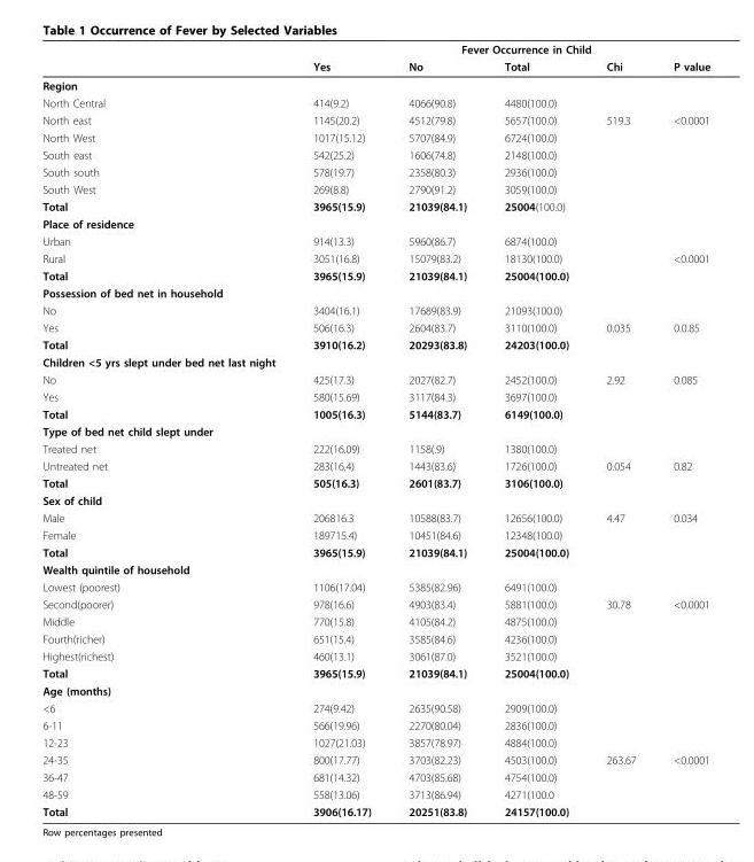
<table><thead><tr><td rowspan="2"></td><td colspan="5">Fever Occurrence in Child</td></tr><tr><td>Yes</td><td>No</td><td>Total</td><td>Chi</td><td>P value</td></tr></thead><tbody><tr><td colspan="6">Region</td></tr><tr><td>North Central</td><td>414(9.2)</td><td>4066(90.8)</td><td>4480(100.0)</td><td></td><td></td></tr><tr><td>North east</td><td>1145(20.2)</td><td>4512(79.8)</td><td>5657(100.0)</td><td>519.3</td><td>&lt;0.0001</td></tr><tr><td>North West</td><td>1017(15.12)</td><td>5707(84.9)</td><td>6724(100.0)</td><td></td><td></td></tr><tr><td>South east</td><td>542(25.2)</td><td>1606(74.8)</td><td>2148(100.0)</td><td></td><td></td></tr><tr><td>South south</td><td>578(19.7)</td><td>2358(80.3)</td><td>2936(100.0)</td><td></td><td></td></tr><tr><td>South West</td><td>269(8.8)</td><td>2790(91.2)</td><td>3059(100.0)</td><td></td><td></td></tr><tr><td>Total</td><td>3965(15.9)</td><td>21039(84.1)</td><td>25004(100.0)</td><td></td><td></td></tr><tr><td colspan="6">Place of residence</td></tr><tr><td>Urban</td><td>914(13.3)</td><td>5960(86.7)</td><td>6874(100.0)</td><td></td><td></td></tr><tr><td>Rural</td><td>3051(16.8)</td><td>15079(83.2)</td><td>18130(100.0)</td><td></td><td>&lt;0.0001</td></tr><tr><td>Total</td><td>3965(15.9)</td><td>21039(84.1)</td><td>25004(100.0)</td><td></td><td></td></tr><tr><td colspan="6">Possession of bed net in household</td></tr><tr><td>No</td><td>3404(16.1)</td><td>17689(83.9)</td><td>21093(100.0)</td><td></td><td></td></tr><tr><td>Yes</td><td>506(16.3)</td><td>2604(83.7)</td><td>3110(100.0)</td><td>0.035</td><td>0.0.85</td></tr><tr><td>Total</td><td>3910(16.2)</td><td>20293(83.8)</td><td>24203(100.0)</td><td></td><td></td></tr><tr><td colspan="6">Children &lt;5 yrs slept under bed net last night</td></tr><tr><td>No</td><td>425(17.3)</td><td>2027(82.7)</td><td>2452(100.0)</td><td>2.92</td><td>0.085</td></tr><tr><td>Yes</td><td>580(15.69)</td><td>3117(84.3)</td><td>3697(100.0)</td><td></td><td></td></tr><tr><td>Total</td><td>1005(16.3)</td><td>5144(83.7)</td><td>6149(100.0)</td><td></td><td></td></tr><tr><td colspan="6">Type of bed net child slept under</td></tr><tr><td>Treated net</td><td>222(16.09)</td><td>1158(.9)</td><td>1380(100.0)</td><td></td><td></td></tr><tr><td>Untreated net</td><td>283(16.4)</td><td>1443(83.6)</td><td>1726(100.0)</td><td>0.054</td><td>0.82</td></tr><tr><td>Total</td><td>505(16.3)</td><td>2601(83.7)</td><td>3106(100.0)</td><td></td><td></td></tr><tr><td colspan="6">Sex of child</td></tr><tr><td>Male</td><td>206816.3</td><td>10588(83.7)</td><td>12656(100.0)</td><td>4.47</td><td>0.034</td></tr><tr><td>Female</td><td>189715.4)</td><td>10451(84.6)</td><td>12348(100.0)</td><td></td><td></td></tr><tr><td>Total</td><td>3965(15.9)</td><td>21039(84.1)</td><td>25004(100.0)</td><td></td><td></td></tr><tr><td colspan="6">Wealth quintile of household</td></tr><tr><td>Lowest (poorest)</td><td>1106(17.04)</td><td>5385(82.96)</td><td>6491(100.0)</td><td></td><td></td></tr><tr><td>Second(poorer)</td><td>978(16.6)</td><td>4903(83.4)</td><td>5881(100.0)</td><td>30.78</td><td>&lt;0.0001</td></tr><tr><td>Middle</td><td>770(15.8)</td><td>4105(84.2)</td><td>4875(100.0)</td><td></td><td></td></tr><tr><td>Fourth(richer)</td><td>651(15.4)</td><td>3585(84.6)</td><td>4236(100.0)</td><td></td><td></td></tr><tr><td>Highest(richest)</td><td>460(13.1)</td><td>3061(87.0)</td><td>3521(100.0)</td><td></td><td></td></tr><tr><td>Total</td><td>3965(15.9)</td><td>21039(84.1)</td><td>25004(100.0)</td><td></td><td></td></tr><tr><td colspan="6">Age (months)</td></tr><tr><td>&lt;6</td><td>274(9.42)</td><td>2635(90.58)</td><td>2909(100.0)</td><td></td><td></td></tr><tr><td>6-11</td><td>566(19.96)</td><td>2270(80.04)</td><td>2836(100.0)</td><td></td><td></td></tr><tr><td>12-23</td><td>1027(21.03)</td><td>3857(78.97)</td><td>4884(100.0)</td><td></td><td></td></tr><tr><td>24-35</td><td>800(17.77)</td><td>3703(82.23)</td><td>4503(100.0)</td><td>263.67</td><td>&lt;0.0001</td></tr><tr><td>36-47</td><td>681(14.32)</td><td>4703(85.68)</td><td>4754(100.0)</td><td></td><td></td></tr><tr><td>48-59</td><td>558(13.06)</td><td>3713(86.94)</td><td>4271(100.0</td><td></td><td></td></tr><tr><td>Total</td><td>3906(16.17)</td><td>20251(83.8)</td><td>24157(100.0)</td><td></td><td></td></tr></tbody></table>